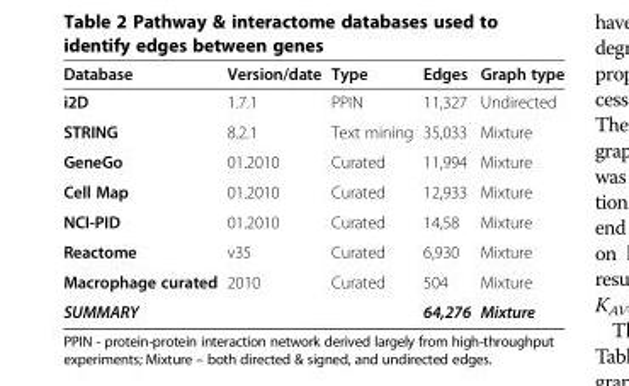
<table><thead><tr><td>Database</td><td>Version/date</td><td>Type</td><td>Edges</td><td>Graph type</td></tr></thead><tbody><tr><td>i2D</td><td>1.7.1</td><td>PPIN</td><td>11,327</td><td>Undirected</td></tr><tr><td>STRING</td><td>8.2.1</td><td>Text mining</td><td>35,033</td><td>Mixture</td></tr><tr><td>GeneGo</td><td>01.2010</td><td>Curated</td><td>11,994</td><td>Mixture</td></tr><tr><td>Cell Map</td><td>01.2010</td><td>Curated</td><td>12,933</td><td>Mixture</td></tr><tr><td>NCI-PID</td><td>01.2010</td><td>Curated</td><td>14,58</td><td>Mixture</td></tr><tr><td>Reactome</td><td>v35</td><td>Curated</td><td>6,930</td><td>Mixture</td></tr><tr><td>Macrophage curated</td><td>2010</td><td>Curated</td><td>504</td><td>Mixture</td></tr><tr><td>SUMMARY</td><td></td><td></td><td>64,276</td><td>Mixture</td></tr></tbody></table>